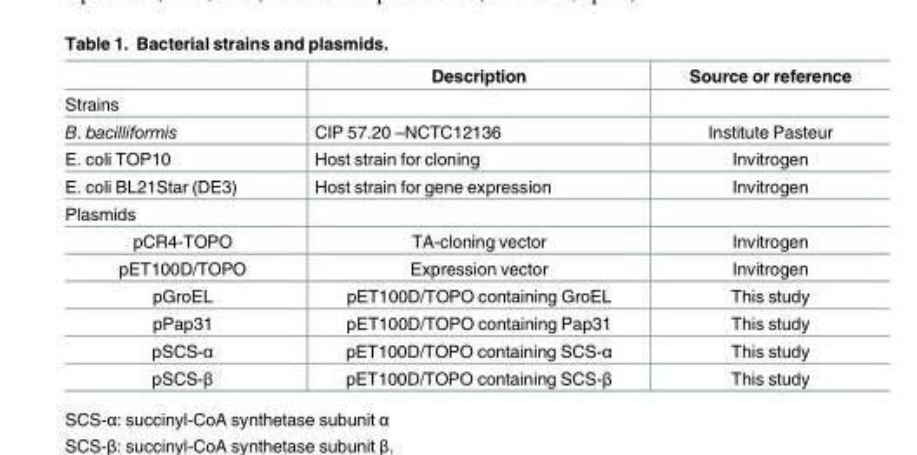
<table><thead><tr><td></td><td>Description</td><td>Source or reference</td></tr></thead><tbody><tr><td colspan="3">Strains</td></tr><tr><td>B. bacilliformis</td><td>CIP 57.20 –NCTC12136</td><td>Institute Pasteur</td></tr><tr><td>E. coli TOP10</td><td>Host strain for cloning</td><td>Invitrogen</td></tr><tr><td>E. coli BL21Star (DE3)</td><td>Host strain for gene expression</td><td>Invitrogen</td></tr><tr><td colspan="3">Plasmids</td></tr><tr><td>pCR4-TOPO</td><td>TA-cloning vector</td><td>Invitrogen</td></tr><tr><td>pET100D/TOPO</td><td>Expression vector</td><td>Invitrogen</td></tr><tr><td>pGroEL</td><td>pET100D/TOPO containing GroEL</td><td>This study</td></tr><tr><td>pPap31</td><td>pET100D/TOPO containing Pap31</td><td>This study</td></tr><tr><td>pSCS-α</td><td>pET100D/TOPO containing SCS-α</td><td>This study</td></tr><tr><td>pSCS-β</td><td>pET100D/TOPO containing SCS-β</td><td>This study</td></tr></tbody></table>